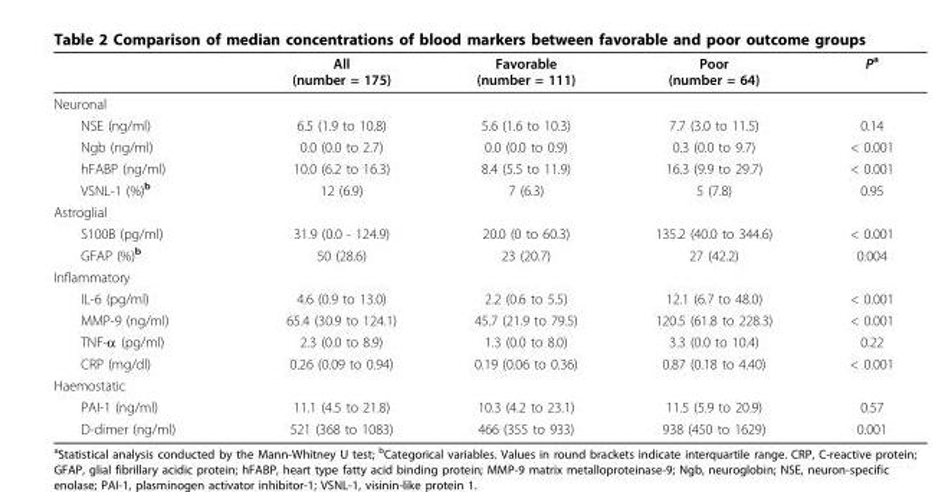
<table><thead><tr><td></td><td>All (number = 175)</td><td>Favorable (number = 111)</td><td>Poor (number = 64)</td><td>P<sup>a</sup></td></tr></thead><tbody><tr><td colspan="5">Neuronal</td></tr><tr><td>NSE (ng/ml)</td><td>6.5 (1.9 to 10.8)</td><td>5.6 (1.6 to 10.3)</td><td>7.7 (3.0 to 11.5)</td><td>0.14</td></tr><tr><td>Ngb (ng/ml)</td><td>0.0 (0.0 to 2.7)</td><td>0.0 (0.0 to 0.9)</td><td>0.3 (0.0 to 9.7)</td><td>&lt; 0.001</td></tr><tr><td>hFABP (ng/ml)</td><td>10.0 (6.2 to 16.3)</td><td>8.4 (5.5 to 11.9)</td><td>16.3 (9.9 to 29.7)</td><td>&lt; 0.001</td></tr><tr><td>VSNL-1 (%)<sup>b</sup></td><td>12 (6.9)</td><td>7 (6.3)</td><td>5 (7.8)</td><td>0.95</td></tr><tr><td colspan="5">Astroglial</td></tr><tr><td>S100B (pg/ml)</td><td>31.9 (0.0 - 124.9)</td><td>20.0 (0 to 60.3)</td><td>135.2 (40.0 to 344.6)</td><td>&lt; 0.001</td></tr><tr><td>GFAP (%)<sup>b</sup></td><td>50 (28.6)</td><td>23 (20.7)</td><td>27 (42.2)</td><td>0.004</td></tr><tr><td colspan="5">Inflammatory</td></tr><tr><td>IL-6 (pg/ml)</td><td>4.6 (0.9 to 13.0)</td><td>2.2 (0.6 to 5.5)</td><td>12.1 (6.7 to 48.0)</td><td>&lt; 0.001</td></tr><tr><td>MMP-9 (ng/ml)</td><td>65.4 (30.9 to 124.1)</td><td>45.7 (21.9 to 79.5)</td><td>120.5 (61.8 to 228.3)</td><td>&lt; 0.001</td></tr><tr><td>TNF-α (pg/ml)</td><td>2.3 (0.0 to 8.9)</td><td>1.3 (0.0 to 8.0)</td><td>3.3 (0.0 to 10.4)</td><td>0.22</td></tr><tr><td>CRP (mg/dl)</td><td>0.26 (0.09 to 0.94)</td><td>0.19 (0.06 to 0.36)</td><td>0.87 (0.18 to 4.40)</td><td>&lt; 0.001</td></tr><tr><td colspan="5">Haemostatic</td></tr><tr><td>PAI-1 (ng/ml)</td><td>11.1 (4.5 to 21.8)</td><td>10.3 (4.2 to 23.1)</td><td>11.5 (5.9 to 20.9)</td><td>0.57</td></tr><tr><td>D-dimer (ng/ml)</td><td>521 (368 to 1083)</td><td>466 (355 to 933)</td><td>938 (450 to 1629)</td><td>0.001</td></tr></tbody></table>